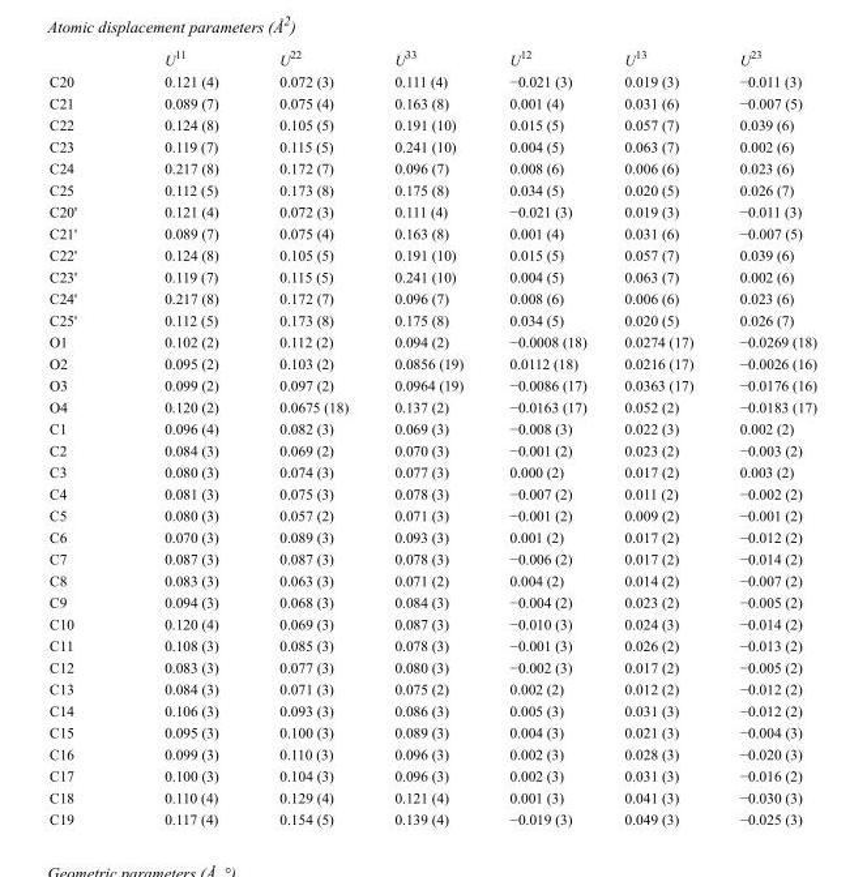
<table><thead><tr><td></td><td>U<sup>11</sup></td><td>U<sup>22</sup></td><td>U<sup>33</sup></td><td>U<sup>12</sup></td><td>U<sup>13</sup></td><td>U<sup>23</sup></td></tr></thead><tbody><tr><td>C20</td><td>0.121 (4)</td><td>0.072 (3)</td><td>0.111 (4)</td><td>−0.021 (3)</td><td>0.019 (3)</td><td>−0.011 (3)</td></tr><tr><td>C21</td><td>0.089 (7)</td><td>0.075 (4)</td><td>0.163 (8)</td><td>0.001 (4)</td><td>0.031 (6)</td><td>−0.007 (5)</td></tr><tr><td>C22</td><td>0.124 (8)</td><td>0.105 (5)</td><td>0.191 (10)</td><td>0.015 (5)</td><td>0.057 (7)</td><td>0.039 (6)</td></tr><tr><td>C23</td><td>0.119 (7)</td><td>0.115 (5)</td><td>0.241 (10)</td><td>0.004 (5)</td><td>0.063 (7)</td><td>0.002 (6)</td></tr><tr><td>C24</td><td>0.217 (8)</td><td>0.172 (7)</td><td>0.096 (7)</td><td>0.008 (6)</td><td>0.006 (6)</td><td>0.023 (6)</td></tr><tr><td>C25</td><td>0.112 (5)</td><td>0.173 (8)</td><td>0.175 (8)</td><td>0.034 (5)</td><td>0.020 (5)</td><td>0.026 (7)</td></tr><tr><td>C20&#x27;</td><td>0.121 (4)</td><td>0.072 (3)</td><td>0.111 (4)</td><td>−0.021 (3)</td><td>0.019 (3)</td><td>−0.011 (3)</td></tr><tr><td>C21&#x27;</td><td>0.089 (7)</td><td>0.075 (4)</td><td>0.163 (8)</td><td>0.001 (4)</td><td>0.031 (6)</td><td>−0.007 (5)</td></tr><tr><td>C22&#x27;</td><td>0.124 (8)</td><td>0.105 (5)</td><td>0.191 (10)</td><td>0.015 (5)</td><td>0.057 (7)</td><td>0.039 (6)</td></tr><tr><td>C23&#x27;</td><td>0.119 (7)</td><td>0.115 (5)</td><td>0.241 (10)</td><td>0.004 (5)</td><td>0.063 (7)</td><td>0.002 (6)</td></tr><tr><td>C24&#x27;</td><td>0.217 (8)</td><td>0.172 (7)</td><td>0.096 (7)</td><td>0.008 (6)</td><td>0.006 (6)</td><td>0.023 (6)</td></tr><tr><td>C25&#x27;</td><td>0.112 (5)</td><td>0.173 (8)</td><td>0.175 (8)</td><td>0.034 (5)</td><td>0.020 (5)</td><td>0.026 (7)</td></tr><tr><td>O1</td><td>0.102 (2)</td><td>0.112 (2)</td><td>0.094 (2)</td><td>−0.0008 (18)</td><td>0.0274 (17)</td><td>−0.0269 (18)</td></tr><tr><td>O2</td><td>0.095 (2)</td><td>0.103 (2)</td><td>0.0856 (19)</td><td>0.0112 (18)</td><td>0.0216 (17)</td><td>−0.0026 (16)</td></tr><tr><td>O3</td><td>0.099 (2)</td><td>0.097 (2)</td><td>0.0964 (19)</td><td>−0.0086 (17)</td><td>0.0363 (17)</td><td>−0.0176 (16)</td></tr><tr><td>O4</td><td>0.120 (2)</td><td>0.0675 (18)</td><td>0.137 (2)</td><td>−0.0163 (17)</td><td>0.052 (2)</td><td>−0.0183 (17)</td></tr><tr><td>C1</td><td>0.096 (4)</td><td>0.082 (3)</td><td>0.069 (3)</td><td>−0.008 (3)</td><td>0.022 (3)</td><td>0.002 (2)</td></tr><tr><td>C2</td><td>0.084 (3)</td><td>0.069 (2)</td><td>0.070 (3)</td><td>−0.001 (2)</td><td>0.023 (2)</td><td>−0.003 (2)</td></tr><tr><td>C3</td><td>0.080 (3)</td><td>0.074 (3)</td><td>0.077 (3)</td><td>0.000 (2)</td><td>0.017 (2)</td><td>0.003 (2)</td></tr><tr><td>C4</td><td>0.081 (3)</td><td>0.075 (3)</td><td>0.078 (3)</td><td>−0.007 (2)</td><td>0.011 (2)</td><td>−0.002 (2)</td></tr><tr><td>C5</td><td>0.080 (3)</td><td>0.057 (2)</td><td>0.071 (3)</td><td>−0.001 (2)</td><td>0.009 (2)</td><td>−0.001 (2)</td></tr><tr><td>C6</td><td>0.070 (3)</td><td>0.089 (3)</td><td>0.093 (3)</td><td>0.001 (2)</td><td>0.017 (2)</td><td>−0.012 (2)</td></tr><tr><td>C7</td><td>0.087 (3)</td><td>0.087 (3)</td><td>0.078 (3)</td><td>−0.006 (2)</td><td>0.017 (2)</td><td>−0.014 (2)</td></tr><tr><td>C8</td><td>0.083 (3)</td><td>0.063 (3)</td><td>0.071 (2)</td><td>0.004 (2)</td><td>0.014 (2)</td><td>−0.007 (2)</td></tr><tr><td>C9</td><td>0.094 (3)</td><td>0.068 (3)</td><td>0.084 (3)</td><td>−0.004 (2)</td><td>0.023 (2)</td><td>−0.005 (2)</td></tr><tr><td>C10</td><td>0.120 (4)</td><td>0.069 (3)</td><td>0.087 (3)</td><td>−0.010 (3)</td><td>0.024 (3)</td><td>−0.014 (2)</td></tr><tr><td>C11</td><td>0.108 (3)</td><td>0.085 (3)</td><td>0.078 (3)</td><td>−0.001 (3)</td><td>0.026 (2)</td><td>−0.013 (2)</td></tr><tr><td>C12</td><td>0.083 (3)</td><td>0.077 (3)</td><td>0.080 (3)</td><td>−0.002 (3)</td><td>0.017 (2)</td><td>−0.005 (2)</td></tr><tr><td>C13</td><td>0.084 (3)</td><td>0.071 (3)</td><td>0.075 (2)</td><td>0.002 (2)</td><td>0.012 (2)</td><td>−0.012 (2)</td></tr><tr><td>C14</td><td>0.106 (3)</td><td>0.093 (3)</td><td>0.086 (3)</td><td>0.005 (3)</td><td>0.031 (3)</td><td>−0.012 (2)</td></tr><tr><td>C15</td><td>0.095 (3)</td><td>0.100 (3)</td><td>0.089 (3)</td><td>0.004 (3)</td><td>0.021 (3)</td><td>−0.004 (3)</td></tr><tr><td>C16</td><td>0.099 (3)</td><td>0.110 (3)</td><td>0.096 (3)</td><td>0.002 (3)</td><td>0.028 (3)</td><td>−0.020 (3)</td></tr><tr><td>C17</td><td>0.100 (3)</td><td>0.104 (3)</td><td>0.096 (3)</td><td>0.002 (3)</td><td>0.031 (3)</td><td>−0.016 (2)</td></tr><tr><td>C18</td><td>0.110 (4)</td><td>0.129 (4)</td><td>0.121 (4)</td><td>0.001 (3)</td><td>0.041 (3)</td><td>−0.030 (3)</td></tr><tr><td>C19</td><td>0.117 (4)</td><td>0.154 (5)</td><td>0.139 (4)</td><td>−0.019 (3)</td><td>0.049 (3)</td><td>−0.025 (3)</td></tr></tbody></table>